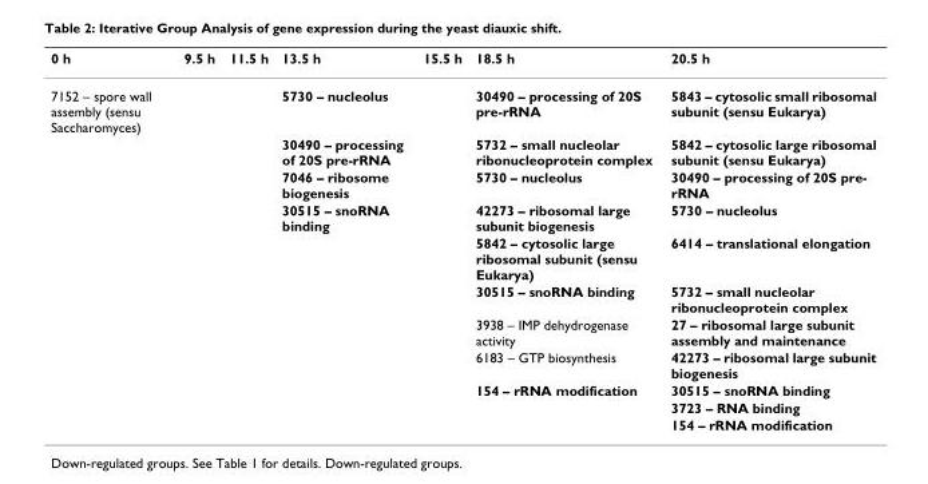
<table><thead><tr><td>0 h</td><td>9.5 h</td><td>11.5 h</td><td>13.5 h</td><td>15.5 h</td><td>18.5 h</td><td>20.5 h</td></tr></thead><tbody><tr><td rowspan="11">7152 – spore wall assembly (sensu Saccharomyces)</td><td></td><td></td><td>5730 – nucleolus</td><td></td><td>30490 – processing of 20S pre-rRNA</td><td>5843 – cytosolic small ribosomal subunit (sensu Eukarya)</td></tr><tr><td></td><td></td><td>30490 – processing of 20S pre-rRNA</td><td></td><td>5732 – small nucleolar ribonucleoprotein complex</td><td>5842 – cytosolic large ribosomal subunit (sensu Eukarya)</td></tr><tr><td></td><td></td><td>7046 – ribosome biogenesis</td><td></td><td>5730 – nucleolus</td><td>30490 – processing of 20S pre- rRNA</td></tr><tr><td></td><td></td><td>30515 – snoRNA binding</td><td></td><td>42273 – ribosomal large subunit biogenesis</td><td>5730 – nucleolus</td></tr><tr><td></td><td></td><td></td><td></td><td>5842 – cytosolic large ribosomal subunit (sensu Eukarya)</td><td>6414 – translational elongation</td></tr><tr><td></td><td></td><td></td><td></td><td>30515 – snoRNA binding</td><td>5732 – small nucleolar ribonucleoprotein complex</td></tr><tr><td></td><td></td><td></td><td></td><td>3938 – IMP dehydrogenase activity</td><td>27 – ribosomal large subunit assembly and maintenance</td></tr><tr><td></td><td></td><td></td><td></td><td>6183 – GTP biosynthesis</td><td>42273 – ribosomal large subunit biogenesis</td></tr><tr><td></td><td></td><td></td><td></td><td>154 – rRNA modification</td><td>30515 – snoRNA binding</td></tr><tr><td></td><td></td><td></td><td></td><td></td><td>3723 – RNA binding</td></tr><tr><td></td><td></td><td></td><td></td><td></td><td>154 – rRNA modification</td></tr></tbody></table>